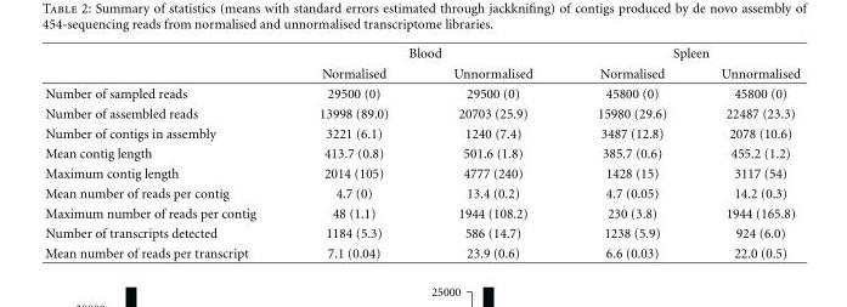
<table><thead><tr><td rowspan="2"></td><td colspan="2">Blood</td><td colspan="2">Spleen</td></tr><tr><td>Normalised</td><td>Unnormalised</td><td>Normalised</td><td>Unnormalised</td></tr></thead><tbody><tr><td>Number of sampled reads</td><td>29500 (0)</td><td>29500 (0)</td><td>45800 (0)</td><td>45800 (0)</td></tr><tr><td>Number of assembled reads</td><td>13998 (89.0)</td><td>20703 (25.9)</td><td>15980 (29.6)</td><td>22487 (23.3)</td></tr><tr><td>Number of contigs in assembly</td><td>3221 (6.1)</td><td>1240 (7.4)</td><td>3487 (12.8)</td><td>2078 (10.6)</td></tr><tr><td>Mean contig length</td><td>413.7 (0.8)</td><td>501.6 (1.8)</td><td>385.7 (0.6)</td><td>455.2 (1.2)</td></tr><tr><td>Maximum contig length</td><td>2014 (105)</td><td>4777 (240)</td><td>1428 (15)</td><td>3117 (54)</td></tr><tr><td>Mean number of reads per contig</td><td>4.7 (0)</td><td>13.4 (0.2)</td><td>4.7 (0.05)</td><td>14.2 (0.3)</td></tr><tr><td>Maximum number of reads per contig</td><td>48 (1.1)</td><td>1944 (108.2)</td><td>230 (3.8)</td><td>1944 (165.8)</td></tr><tr><td>Number of transcripts detected</td><td>1184 (5.3)</td><td>586 (14.7)</td><td>1238 (5.9)</td><td>924 (6.0)</td></tr><tr><td>Mean number of reads per transcript</td><td>7.1 (0.04)</td><td>23.9 (0.6)</td><td>6.6 (0.03)</td><td>22.0 (0.5)</td></tr></tbody></table>